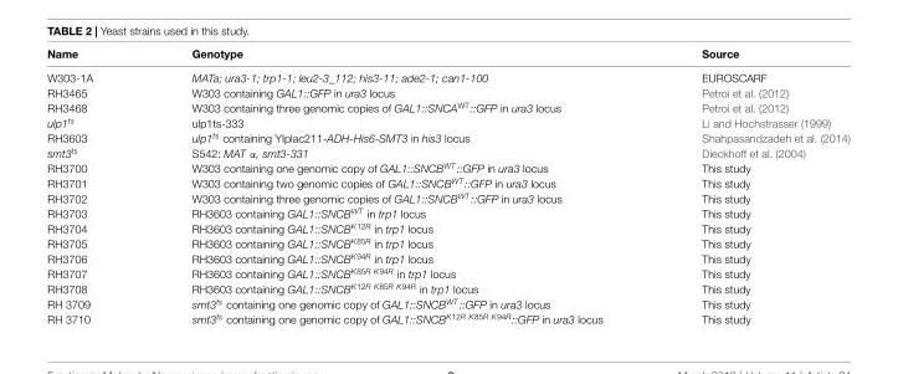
<table><thead><tr><td>Name</td><td>Genotype</td><td>Source</td></tr></thead><tbody><tr><td>W303-1A</td><td>MATa; ura3-1; trp1-1; leu2-3_112; his3-11; ade2-1; can1-100</td><td>EUROSCARF</td></tr><tr><td>RH3465</td><td>W303 containing GAL1::GFP in ura3 locus</td><td>Petroi et al. (2012)</td></tr><tr><td>RH3468</td><td>W303 containing three genomic copies of GAL1::SNCA<sup>WT</sup>::GFP in ura3 locus</td><td>Petroi et al. (2012)</td></tr><tr><td>ulp1<sup>ts</sup></td><td>ulp1ts-333</td><td>Li and Hochstrasser (1999)</td></tr><tr><td>RH3603</td><td>ulp1<sup>ts</sup> containing YIplac211-ADH-His6-SMT3 in his3 locus</td><td>Shahpasandzadeh et al. (2014)</td></tr><tr><td>smt3<sup>ts</sup></td><td>S542: MAT α, smt3-331</td><td>Dieckhoff et al. (2004)</td></tr><tr><td>RH3700</td><td>W303 containing one genomic copy of GAL1::SNCB<sup>WT</sup>::GFP in ura3 locus</td><td>This study</td></tr><tr><td>RH3701</td><td>W303 containing two genomic copies of GAL1::SNCB<sup>WT</sup>::GFP in ura3 locus</td><td>This study</td></tr><tr><td>RH3702</td><td>W303 containing three genomic copies of GAL1::SNCB<sup>WT</sup>::GFP in ura3 locus</td><td>This study</td></tr><tr><td>RH3703</td><td>RH3603 containing GAL1::SNCB<sup>WT</sup> in trp1 locus</td><td>This study</td></tr><tr><td>RH3704</td><td>RH3603 containing GAL1::SNCB<sup>K12R</sup> in trp1 locus</td><td>This study</td></tr><tr><td>RH3705</td><td>RH3603 containing GAL1::SNCB<sup>K85R</sup> in trp1 locus</td><td>This study</td></tr><tr><td>RH3706</td><td>RH3603 containing GAL1::SNCB<sup>K94R</sup> in trp1 locus</td><td>This study</td></tr><tr><td>RH3707</td><td>RH3603 containing GAL1::SNCB<sup>K85R K94R</sup> in trp1 locus</td><td>This study</td></tr><tr><td>RH3708</td><td>RH3603 containing GAL1::SNCB<sup>K12R K85R K94R</sup> in trp1 locus</td><td>This study</td></tr><tr><td>RH 3709</td><td>smt3<sup>ts</sup> containing one genomic copy of GAL1::SNCB<sup>WT</sup>::GFP in ura3 locus</td><td>This study</td></tr><tr><td>RH 3710</td><td>smt3<sup>ts</sup> containing one genomic copy of GAL1::SNCB<sup>K12R K85R K94R</sup>::GFP in ura3 locus</td><td>This study</td></tr></tbody></table>